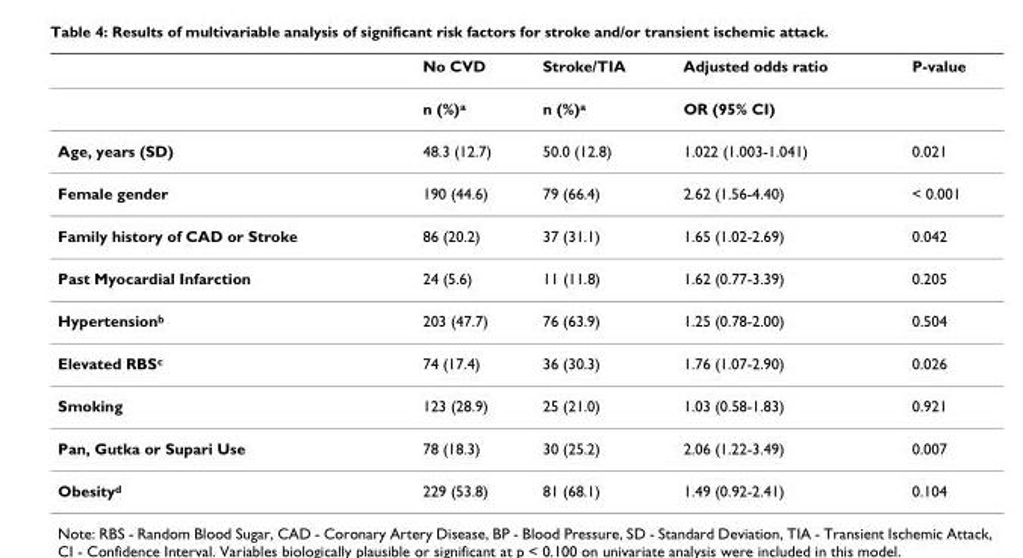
<table><thead><tr><td></td><td>No CVD</td><td>Stroke/TIA</td><td>Adjusted odds ratio</td><td>P-value</td></tr></thead><tbody><tr><td></td><td>n (%)<sup>a</sup></td><td>n (%)<sup>a</sup></td><td>OR (95% CI)</td><td></td></tr><tr><td>Age, years (SD)</td><td>48.3 (12.7)</td><td>50.0 (12.8)</td><td>1.022 (1.003-1.041)</td><td>0.021</td></tr><tr><td>Female gender</td><td>190 (44.6)</td><td>79 (66.4)</td><td>2.62 (1.56-4.40)</td><td>&lt; 0.001</td></tr><tr><td>Family history of CAD or Stroke</td><td>86 (20.2)</td><td>37 (31.1)</td><td>1.65 (1.02-2.69)</td><td>0.042</td></tr><tr><td>Past Myocardial Infarction</td><td>24 (5.6)</td><td>11 (11.8)</td><td>1.62 (0.77-3.39)</td><td>0.205</td></tr><tr><td>Hypertension<sup>b</sup></td><td>203 (47.7)</td><td>76 (63.9)</td><td>1.25 (0.78-2.00)</td><td>0.504</td></tr><tr><td>Elevated RBS<sup>c</sup></td><td>74 (17.4)</td><td>36 (30.3)</td><td>1.76 (1.07-2.90)</td><td>0.026</td></tr><tr><td>Smoking</td><td>123 (28.9)</td><td>25 (21.0)</td><td>1.03 (0.58-1.83)</td><td>0.921</td></tr><tr><td>Pan, Gutka or Supari Use</td><td>78 (18.3)</td><td>30 (25.2)</td><td>2.06 (1.22-3.49)</td><td>0.007</td></tr><tr><td>Obesity<sup>d</sup></td><td>229 (53.8)</td><td>81 (68.1)</td><td>1.49 (0.92-2.41)</td><td>0.104</td></tr></tbody></table>